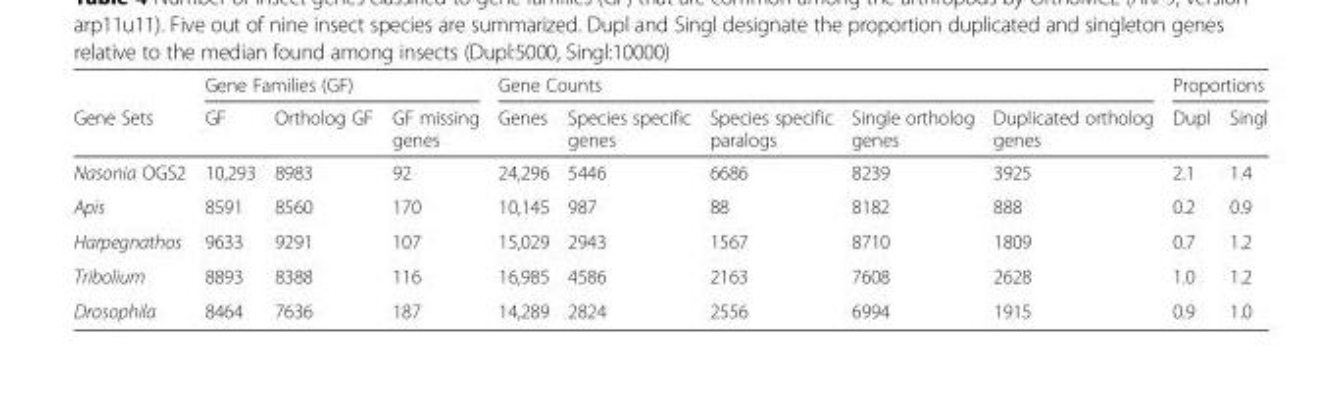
<table><thead><tr><td rowspan="2">Gene Sets</td><td colspan="3">Gene Families (GF)</td><td colspan="5">Gene Counts</td><td colspan="2">Proportions</td></tr><tr><td>GF</td><td>Ortholog GF</td><td>GF missing genes</td><td>Genes</td><td>Species specific genes</td><td>Species specific paralogs</td><td>Single ortholog genes</td><td>Duplicated ortholog genes</td><td>Dupl</td><td>Singl</td></tr></thead><tbody><tr><td>Nasonia OGS2</td><td>10,293</td><td>8983</td><td>92</td><td>24,296</td><td>5446</td><td>6686</td><td>8239</td><td>3925</td><td>2.1</td><td>1.4</td></tr><tr><td>Apis</td><td>8591</td><td>8560</td><td>170</td><td>10,145</td><td>987</td><td>88</td><td>8182</td><td>888</td><td>0.2</td><td>0.9</td></tr><tr><td>Harpegnathos</td><td>9633</td><td>9291</td><td>107</td><td>15,029</td><td>2943</td><td>1567</td><td>8710</td><td>1809</td><td>0.7</td><td>1.2</td></tr><tr><td>Tribolium</td><td>8893</td><td>8388</td><td>116</td><td>16,985</td><td>4586</td><td>2163</td><td>7608</td><td>2628</td><td>1.0</td><td>1.2</td></tr><tr><td>Drosophila</td><td>8464</td><td>7636</td><td>187</td><td>14,289</td><td>2824</td><td>2556</td><td>6994</td><td>1915</td><td>0.9</td><td>1.0</td></tr></tbody></table>